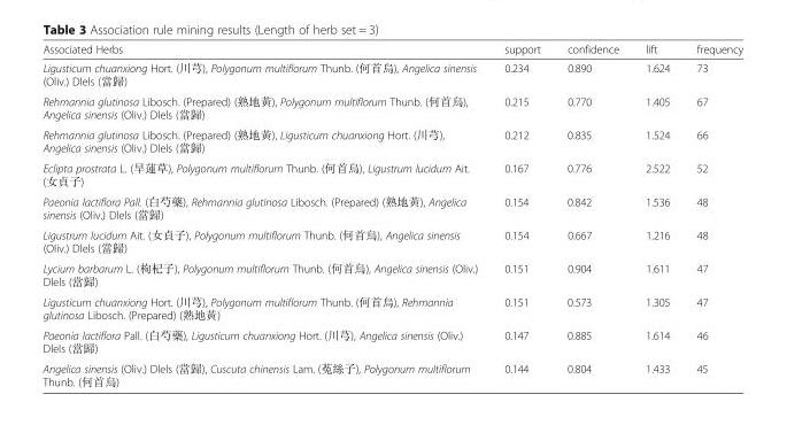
<table><thead><tr><td>Associated Herbs</td><td>support</td><td>confidence</td><td>lift</td><td>frequency</td></tr></thead><tbody><tr><td>Ligusticum chuanxiong Hort. (川芎), Polygonum multiflorum Thunb. (何首烏), Angelica sinensis (Oliv.) Dlels (當歸)</td><td>0.234</td><td>0.890</td><td>1.624</td><td>73</td></tr><tr><td>Rehmannia glutinosa Libosch. (Prepared) (熟地黃), Polygonum multiflorum Thunb. (何首烏), Angelica sinensis (Oliv.) Dlels (當歸)</td><td>0.215</td><td>0.770</td><td>1.405</td><td>67</td></tr><tr><td>Rehmannia glutinosa Libosch. (Prepared) (熟地黃), Ligusticum chuanxiong Hort. (川芎), Angelica sinensis (Oliv.) Dlels (當歸)</td><td>0.212</td><td>0.835</td><td>1.524</td><td>66</td></tr><tr><td>Eclipta prostrata L. (旱蓮草), Polygonum multiflorum Thunb. (何首烏), Ligustrum lucidum Ait. (女貞子)</td><td>0.167</td><td>0.776</td><td>2.522</td><td>52</td></tr><tr><td>Paeonia lactiflora Pall. (白芍藥), Rehmannia glutinosa Libosch. (Prepared) (熟地黃), Angelica sinensis (Oliv.) Dlels (當歸)</td><td>0.154</td><td>0.842</td><td>1.536</td><td>48</td></tr><tr><td>Ligustrum lucidum Ait. (女貞子), Polygonum multiflorum Thunb. (何首烏), Angelica sinensis (Oliv.) Dlels (當歸)</td><td>0.154</td><td>0.667</td><td>1.216</td><td>48</td></tr><tr><td>Lycium barbarum L. (枸杞子), Polygonum multiflorum Thunb. (何首烏), Angelica sinensis (Oliv.) Dlels (當歸)</td><td>0.151</td><td>0.904</td><td>1.611</td><td>47</td></tr><tr><td>Ligusticum chuanxiong Hort. (川芎), Polygonum multiflorum Thunb. (何首烏), Rehmannia glutinosa Libosch. (Prepared) (熟地黃)</td><td>0.151</td><td>0.573</td><td>1.305</td><td>47</td></tr><tr><td>Paeonia lactiflora Pall. (白芍藥), Ligusticum chuanxiong Hort. (川芎), Angelica sinensis (Oliv.) Dlels (當歸)</td><td>0.147</td><td>0.885</td><td>1.614</td><td>46</td></tr><tr><td>Angelica sinensis (Oliv.) Dlels (當歸), Cuscuta chinensis Lam. (菟絲子), Polygonum multiflorum Thunb. (何首烏)</td><td>0.144</td><td>0.804</td><td>1.433</td><td>45</td></tr></tbody></table>